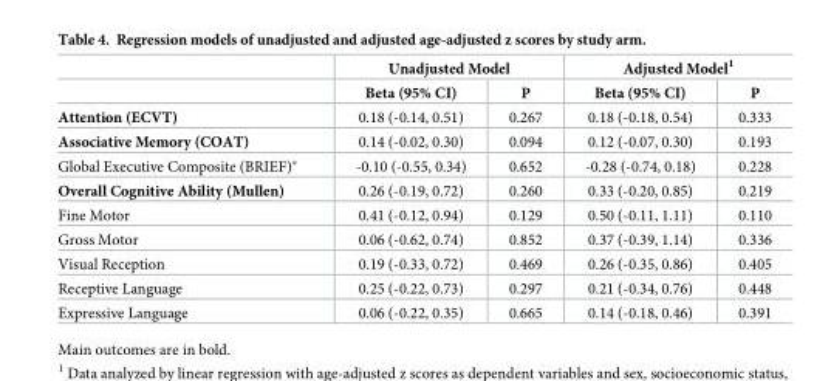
<table><thead><tr><td rowspan="2"></td><td colspan="2">Unadjusted Model</td><td colspan="2">Adjusted Model<sup>1</sup></td></tr><tr><td>Beta (95% CI)</td><td>P</td><td>Beta (95% CI)</td><td>P</td></tr></thead><tbody><tr><td>Attention (ECVT)</td><td>0.18 (-0.14, 0.51)</td><td>0.267</td><td>0.18 (-0.18, 0.54)</td><td>0.333</td></tr><tr><td>Associative Memory (COAT)</td><td>0.14 (-0.02, 0.30)</td><td>0.094</td><td>0.12 (-0.07, 0.30)</td><td>0.193</td></tr><tr><td>Global Executive Composite (BRIEF)*</td><td>-0.10 (-0.55, 0.34)</td><td>0.652</td><td>-0.28 (-0.74, 0.18)</td><td>0.228</td></tr><tr><td>Overall Cognitive Ability (Mullen)</td><td>0.26 (-0.19, 0.72)</td><td>0.260</td><td>0.33 (-0.20, 0.85)</td><td>0.219</td></tr><tr><td>Fine Motor</td><td>0.41 (-0.12, 0.94)</td><td>0.129</td><td>0.50 (-0.11, 1.11)</td><td>0.110</td></tr><tr><td>Gross Motor</td><td>0.06 (-0.62, 0.74)</td><td>0.852</td><td>0.37 (-0.39, 1.14)</td><td>0.336</td></tr><tr><td>Visual Reception</td><td>0.19 (-0.33, 0.72)</td><td>0.469</td><td>0.26 (-0.35, 0.86)</td><td>0.405</td></tr><tr><td>Receptive Language</td><td>0.25 (-0.22, 0.73)</td><td>0.297</td><td>0.21 (-0.34, 0.76)</td><td>0.448</td></tr><tr><td>Expressive Language</td><td>0.06 (-0.22, 0.35)</td><td>0.665</td><td>0.14 (-0.18, 0.46)</td><td>0.391</td></tr></tbody></table>